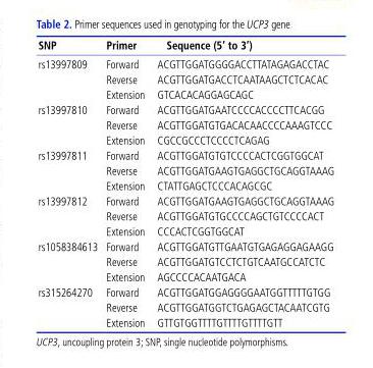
<table><thead><tr><td>SNP</td><td>Primer</td><td>Sequence (5’ to 3’)</td></tr></thead><tbody><tr><td rowspan="3">rs13997809</td><td>Forward</td><td>ACGTTGGATGGGGACCTTATAGAGACCTAC</td></tr><tr><td>Reverse</td><td>ACGTTGGATGACCTCAATAAGCTCTCACAC</td></tr><tr><td>Extension</td><td>GTCACACAGGAGCAGC</td></tr><tr><td rowspan="3">rs13997810</td><td>Forward</td><td>ACGTTGGATGAATCCCCACCCCTTCACGG</td></tr><tr><td>Reverse</td><td>ACGTTGGATGTGACACAACCCCAAAGTCCC</td></tr><tr><td>Extension</td><td>CGCCGCCCTCCCCTCAGAG</td></tr><tr><td rowspan="3">rs13997811</td><td>Forward</td><td>ACGTTGGATGTGTCCCCACTCGGTGGCAT</td></tr><tr><td>Reverse</td><td>ACGTTGGATGAAGTGAGGCTGCAGGTAAAG</td></tr><tr><td>Extension</td><td>CTATTGAGCTCCCACAGCGC</td></tr><tr><td rowspan="3">rs13997812</td><td>Forward</td><td>ACGTTGGATGAAGTGAGGCTGCAGGTAAAG</td></tr><tr><td>Reverse</td><td>ACGTTGGATGTGCCCCAGCTGTCCCCACT</td></tr><tr><td>Extension</td><td>CCCACTCGGTGGCAT</td></tr><tr><td rowspan="3">rs1058384613</td><td>Forward</td><td>ACGTTGGATGTTGAATGTGAGAGGAGAAGG</td></tr><tr><td>Reverse</td><td>ACGTTGGATGTCCTCTGTCAATGCCATCTC</td></tr><tr><td>Extension</td><td>AGCCCCACAATGACA</td></tr><tr><td rowspan="3">rs315264270</td><td>Forward</td><td>ACGTTGGATGGAGGGGAATGGTTTTTGTGG</td></tr><tr><td>Reverse</td><td>ACGTTGGATGGTCTGAGAGCTACAATCGTG</td></tr><tr><td>Extension</td><td>GTTGTGGTTTTGTTTTGTTTTGTT</td></tr></tbody></table>